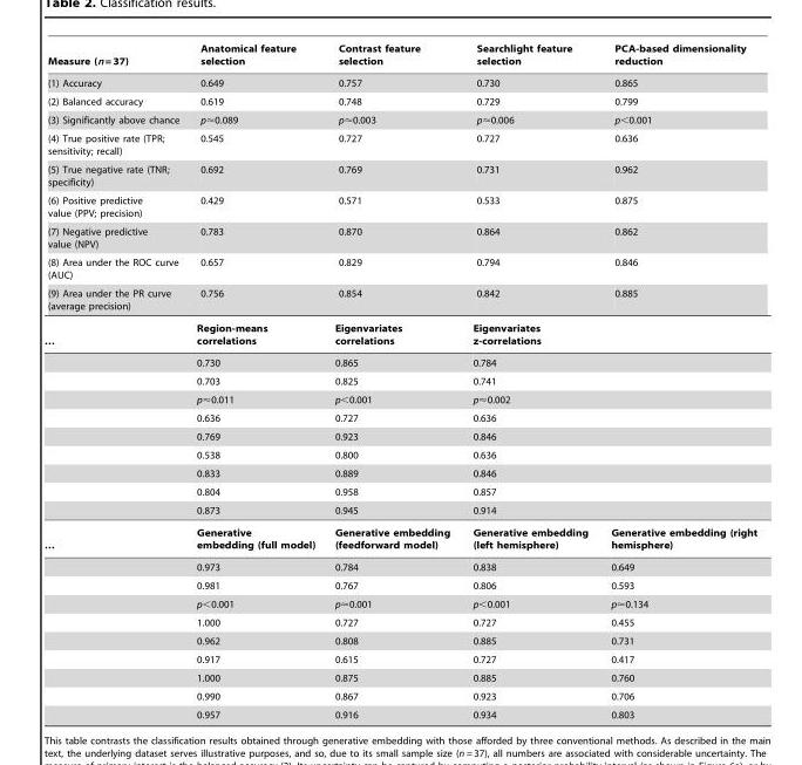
<table><thead><tr><td>Measure (n = 37)</td><td>Anatomical feature selection</td><td>Contrast feature selection</td><td>Searchlight feature selection</td><td>PCA-based dimensionality reduction</td></tr></thead><tbody><tr><td>(1) Accuracy</td><td>0.649</td><td>0.757</td><td>0.730</td><td>0.865</td></tr><tr><td>(2) Balanced accuracy</td><td>0.619</td><td>0.748</td><td>0.729</td><td>0.799</td></tr><tr><td>(3) Significantly above chance</td><td>p&lt;0.089</td><td>p&lt;0.003</td><td>p&lt;0.006</td><td>p&lt;0.001</td></tr><tr><td>(4) True positive rate (TPR; sensitivity; recall)</td><td>0.545</td><td>0.727</td><td>0.727</td><td>0.636</td></tr><tr><td>(5) True negative rate (TNR; specificity)</td><td>0.692</td><td>0.769</td><td>0.731</td><td>0.962</td></tr><tr><td>(6) Positive predictive value (PPV; precision)</td><td>0.429</td><td>0.571</td><td>0.533</td><td>0.875</td></tr><tr><td>(7) Negative predictive value (NPV)</td><td>0.783</td><td>0.870</td><td>0.864</td><td>0.862</td></tr><tr><td>(8) Area under the ROC curve (AUC)</td><td>0.657</td><td>0.829</td><td>0.794</td><td>0.846</td></tr><tr><td>(9) Area under the PR curve (average precision)</td><td>0.756</td><td>0.854</td><td>0.842</td><td>0.885</td></tr><tr><td rowspan="10">…</td><td>Region-means correlations</td><td>Eigenvariates correlations</td><td>Eigenvariates z-correlations</td><td></td></tr><tr><td>0.730</td><td>0.865</td><td>0.784</td><td></td></tr><tr><td>0.703</td><td>0.825</td><td>0.741</td><td></td></tr><tr><td>p&lt;0.011</td><td>p&lt;0.001</td><td>p&lt;0.002</td><td></td></tr><tr><td>0.636</td><td>0.727</td><td>0.636</td><td></td></tr><tr><td>0.769</td><td>0.923</td><td>0.846</td><td></td></tr><tr><td>0.538</td><td>0.800</td><td>0.636</td><td></td></tr><tr><td>0.833</td><td>0.889</td><td>0.846</td><td></td></tr><tr><td>0.804</td><td>0.958</td><td>0.857</td><td></td></tr><tr><td>0.873</td><td>0.945</td><td>0.914</td><td></td></tr><tr><td rowspan="10">…</td><td>Generative embedding (full model)</td><td>Generative embedding (feedforward model)</td><td>Generative embedding (left hemisphere)</td><td>Generative embedding (right hemisphere)</td></tr><tr><td>0.973</td><td>0.784</td><td>0.838</td><td>0.649</td></tr><tr><td>0.981</td><td>0.767</td><td>0.806</td><td>0.593</td></tr><tr><td>p&lt;0.001</td><td>p&lt;0.001</td><td>p&lt;0.001</td><td>p&lt;0.134</td></tr><tr><td>1.000</td><td>0.727</td><td>0.727</td><td>0.455</td></tr><tr><td>0.962</td><td>0.808</td><td>0.885</td><td>0.731</td></tr><tr><td>0.917</td><td>0.615</td><td>0.727</td><td>0.417</td></tr><tr><td>1.000</td><td>0.875</td><td>0.885</td><td>0.760</td></tr><tr><td>0.990</td><td>0.867</td><td>0.923</td><td>0.706</td></tr><tr><td>0.957</td><td>0.916</td><td>0.934</td><td>0.803</td></tr></tbody></table>